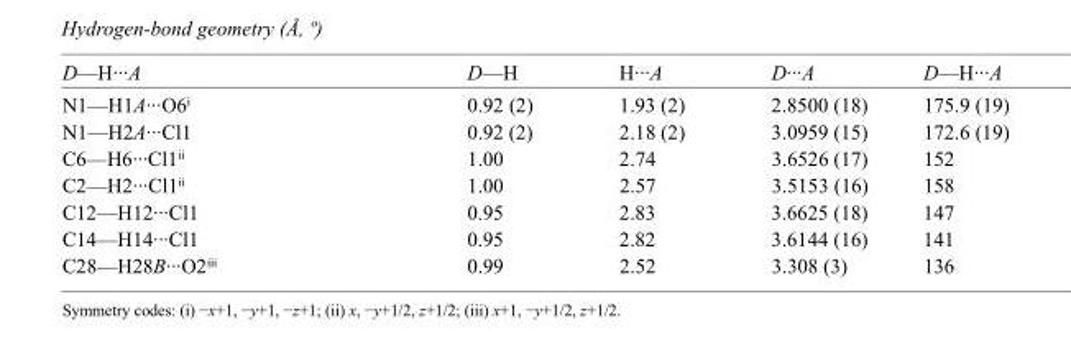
<table><tbody><tr><td>D—H···A</td><td>D—H</td><td>H···A</td><td>D···A</td><td>D—H···A</td></tr><tr><td>N1—H1A···O6<sup>i</sup></td><td>0.92 (2)</td><td>1.93 (2)</td><td>2.8500 (18)</td><td>175.9 (19)</td></tr><tr><td>N1—H2A···Cl1</td><td>0.92 (2)</td><td>2.18 (2)</td><td>3.0959 (15)</td><td>172.6 (19)</td></tr><tr><td>C6—H6···Cl1<sup>ii</sup></td><td>1.00</td><td>2.74</td><td>3.6526 (17)</td><td>152</td></tr><tr><td>C2—H2···Cl1<sup>ii</sup></td><td>1.00</td><td>2.57</td><td>3.5153 (16)</td><td>158</td></tr><tr><td>C12—H12···Cl1</td><td>0.95</td><td>2.83</td><td>3.6625 (18)</td><td>147</td></tr><tr><td>C14—H14···Cl1</td><td>0.95</td><td>2.82</td><td>3.6144 (16)</td><td>141</td></tr><tr><td>C28—H28B···O2<sup>iii</sup></td><td>0.99</td><td>2.52</td><td>3.308 (3)</td><td>136</td></tr></tbody></table>